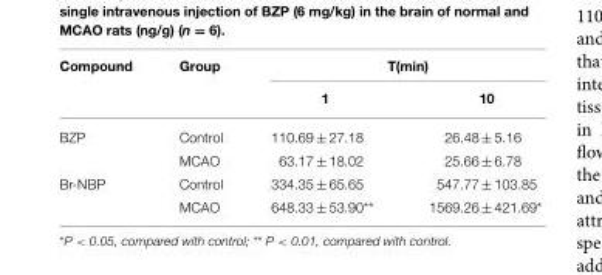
<table><thead><tr><td rowspan="2">Compound</td><td rowspan="2">Group</td><td colspan="2">T(min)</td></tr><tr><td>1</td><td>10</td></tr></thead><tbody><tr><td rowspan="2">BZP</td><td>Control</td><td>110.69 ± 27.18</td><td>26.48 ± 5.16</td></tr><tr><td>MCAO</td><td>63.17 ± 18.02</td><td>25.66 ± 6.78</td></tr><tr><td rowspan="2">Br-NBP</td><td>Control</td><td>334.35 ± 65.65</td><td>547.77 ± 103.85</td></tr><tr><td>MCAO</td><td>648.33 ± 53.90**</td><td>1569.26 ± 421.69*</td></tr></tbody></table>